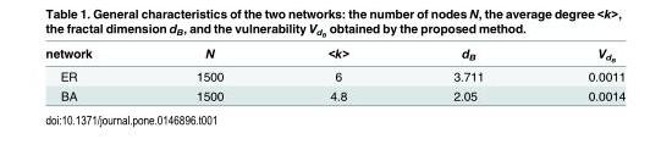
<table><thead><tr><td>network</td><td>N</td><td>&lt;k&gt;</td><td>d<sub>B</sub></td><td>VdB</td></tr></thead><tbody><tr><td>ER</td><td>1500</td><td>6</td><td>3.711</td><td>0.0011</td></tr><tr><td>BA</td><td>1500</td><td>4.8</td><td>2.05</td><td>0.0014</td></tr></tbody></table>